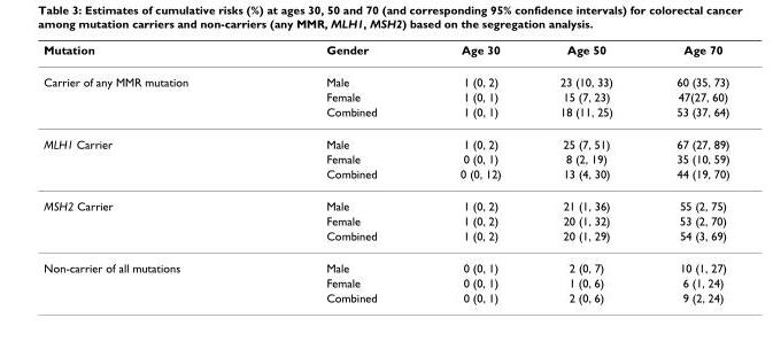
<table><thead><tr><td>Mutation</td><td>Gender</td><td>Age 30</td><td>Age 50</td><td>Age 70</td></tr></thead><tbody><tr><td rowspan="3">Carrier of any MMR mutation</td><td>Male</td><td>1 (0, 2)</td><td>23 (10, 33)</td><td>60 (35, 73)</td></tr><tr><td>Female</td><td>1 (0, 1)</td><td>15 (7, 23)</td><td>47(27, 60)</td></tr><tr><td>Combined</td><td>1 (0, 1)</td><td>18 (11, 25)</td><td>53 (37, 64)</td></tr><tr><td rowspan="3">MLH1 Carrier</td><td>Male</td><td>1 (0, 2)</td><td>25 (7, 51)</td><td>67 (27, 89)</td></tr><tr><td>Female</td><td>0 (0, 1)</td><td>8 (2, 19)</td><td>35 (10, 59)</td></tr><tr><td>Combined</td><td>0 (0, 12)</td><td>13 (4, 30)</td><td>44 (19, 70)</td></tr><tr><td rowspan="3">MSH2 Carrier</td><td>Male</td><td>1 (0, 2)</td><td>21 (1, 36)</td><td>55 (2, 75)</td></tr><tr><td>Female</td><td>1 (0, 2)</td><td>20 (1, 32)</td><td>53 (2, 70)</td></tr><tr><td>Combined</td><td>1 (0, 2)</td><td>20 (1, 29)</td><td>54 (3, 69)</td></tr><tr><td rowspan="3">Non-carrier of all mutations</td><td>Male</td><td>0 (0, 1)</td><td>2 (0, 7)</td><td>10 (1, 27)</td></tr><tr><td>Female</td><td>0 (0, 1)</td><td>1 (0, 6)</td><td>6 (1, 24)</td></tr><tr><td>Combined</td><td>0 (0, 1)</td><td>2 (0, 6)</td><td>9 (2, 24)</td></tr></tbody></table>